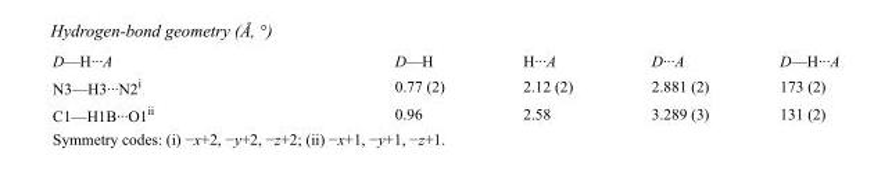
<table><tbody><tr><td>D—H···A</td><td>D—H</td><td>H···A</td><td>D···A</td><td>D—H···A</td></tr><tr><td>N3—H3···N2<sup>i</sup></td><td>0.77 (2)</td><td>2.12 (2)</td><td>2.881 (2)</td><td>173 (2)</td></tr><tr><td>C1—H1B···O1<sup>ii</sup></td><td>0.96</td><td>2.58</td><td>3.289 (3)</td><td>131 (2)</td></tr></tbody></table>